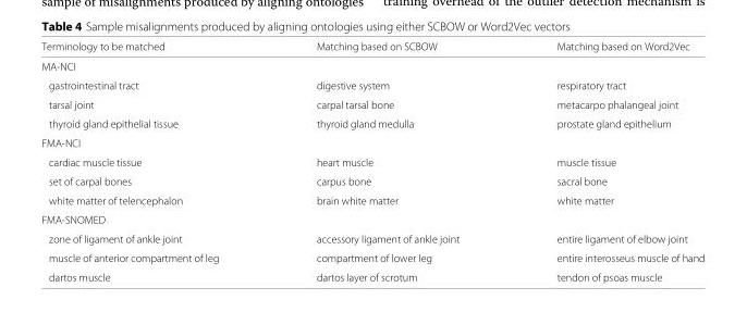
<table><thead><tr><td>Terminology to be matched</td><td>Matching based on SCBOW</td><td>Matching based on Word2Vec</td></tr></thead><tbody><tr><td colspan="3">MA-NCI</td></tr><tr><td>gastrointestinal tract</td><td>digestive system</td><td>respiratory tract</td></tr><tr><td>tarsal joint</td><td>carpal tarsal bone</td><td>metacarpo phalangeal joint</td></tr><tr><td>thyroid gland epithelial tissue</td><td>thyroid gland medulla</td><td>prostate gland epithelium</td></tr><tr><td colspan="3">FMA-NCI</td></tr><tr><td>cardiac muscle tissue</td><td>heart muscle</td><td>muscle tissue</td></tr><tr><td>set of carpal bones</td><td>carpus bone</td><td>sacral bone</td></tr><tr><td>white matter of telencephalon</td><td>brain white matter</td><td>white matter</td></tr><tr><td colspan="3">FMA-SNOMED</td></tr><tr><td>zone of ligament of ankle joint</td><td>accessory ligament of ankle joint</td><td>entire ligament of elbow joint</td></tr><tr><td>muscle of anterior compartment of leg</td><td>compartment of lower leg</td><td>entire interosseus muscle of hand</td></tr><tr><td>dartos muscle</td><td>dartos layer of scrotum</td><td>tendon of psoas muscle</td></tr></tbody></table>